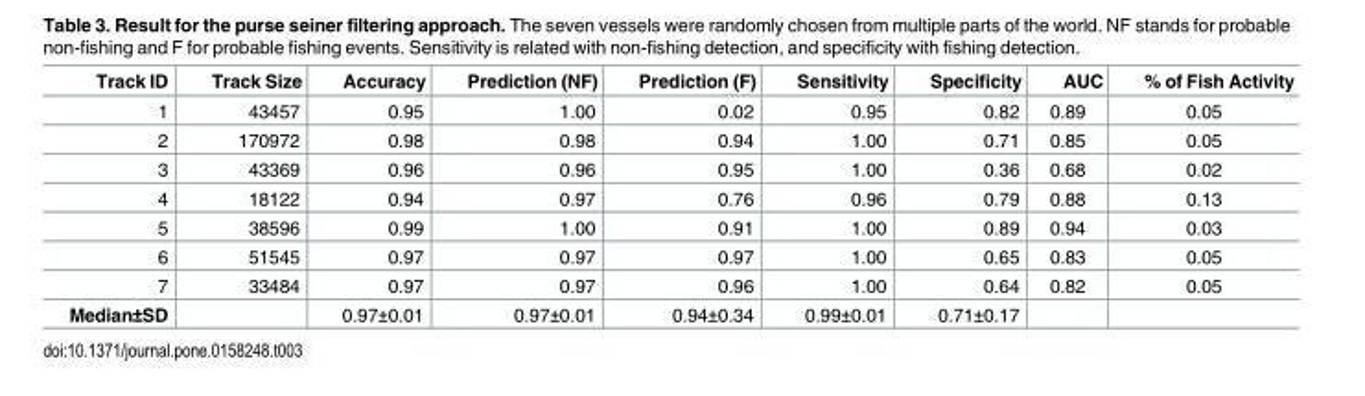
<table><thead><tr><td>Track ID</td><td>Track Size</td><td>Accuracy</td><td>Prediction (NF)</td><td>Prediction (F)</td><td>Sensitivity</td><td>Specificity</td><td>AUC</td><td>% of Fish Activity</td></tr></thead><tbody><tr><td>1</td><td>43457</td><td>0.95</td><td>1.00</td><td>0.02</td><td>0.95</td><td>0.82</td><td>0.89</td><td>0.05</td></tr><tr><td>2</td><td>170972</td><td>0.98</td><td>0.98</td><td>0.94</td><td>1.00</td><td>0.71</td><td>0.85</td><td>0.05</td></tr><tr><td>3</td><td>43369</td><td>0.96</td><td>0.96</td><td>0.95</td><td>1.00</td><td>0.36</td><td>0.68</td><td>0.02</td></tr><tr><td>4</td><td>18122</td><td>0.94</td><td>0.97</td><td>0.76</td><td>0.96</td><td>0.79</td><td>0.88</td><td>0.13</td></tr><tr><td>5</td><td>38596</td><td>0.99</td><td>1.00</td><td>0.91</td><td>1.00</td><td>0.89</td><td>0.94</td><td>0.03</td></tr><tr><td>6</td><td>51545</td><td>0.97</td><td>0.97</td><td>0.97</td><td>1.00</td><td>0.65</td><td>0.83</td><td>0.05</td></tr><tr><td>7</td><td>33484</td><td>0.97</td><td>0.97</td><td>0.96</td><td>1.00</td><td>0.64</td><td>0.82</td><td>0.05</td></tr><tr><td>Median±SD</td><td></td><td>0.97±0.01</td><td>0.97±0.01</td><td>0.94±0.34</td><td>0.99±0.01</td><td>0.71±0.17</td><td></td><td></td></tr></tbody></table>